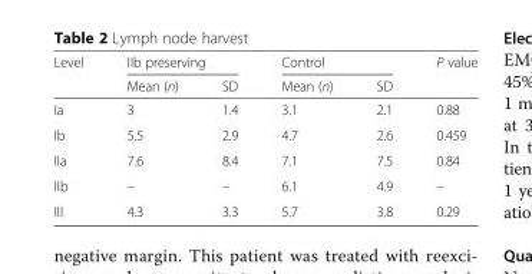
<table><thead><tr><td rowspan="2">Level</td><td colspan="2">IIb preserving</td><td colspan="2">Control</td><td rowspan="2">P value</td></tr><tr><td>Mean (n)</td><td>SD</td><td>Mean (n)</td><td>SD</td></tr></thead><tbody><tr><td>Ia</td><td>3</td><td>1.4</td><td>3.1</td><td>2.1</td><td>0.88</td></tr><tr><td>Ib</td><td>5.5</td><td>2.9</td><td>4.7</td><td>2.6</td><td>0.459</td></tr><tr><td>IIa</td><td>7.6</td><td>8.4</td><td>7.1</td><td>7.5</td><td>0.84</td></tr><tr><td>IIb</td><td>–</td><td>–</td><td>6.1</td><td>4.9</td><td>–</td></tr><tr><td>III</td><td>4.3</td><td>3.3</td><td>5.7</td><td>3.8</td><td>0.29</td></tr></tbody></table>